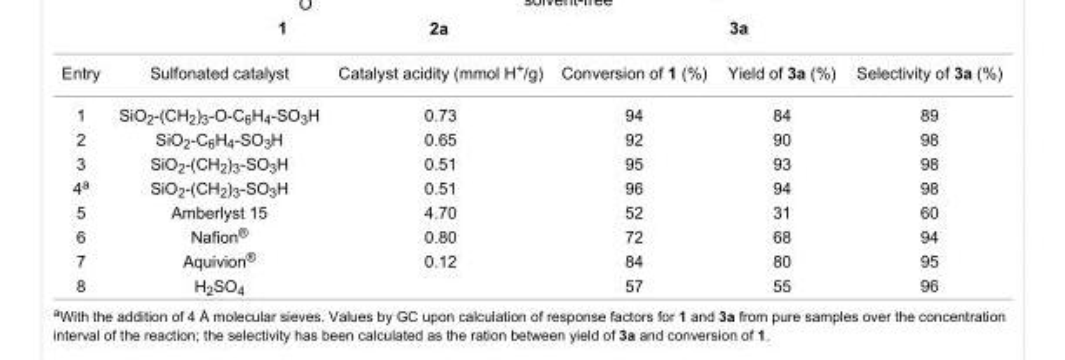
<table><tbody><tr><td>Entry</td><td>Sulfonated catalyst</td><td>Catalyst acidity (mmol H<sup>+</sup>/g)</td><td>Conversion of 1 (%)</td><td>Yield of 3a (%)</td><td>Selectivity of 3a (%)</td></tr><tr><td>1</td><td>SiO<sub>2</sub>-(CH<sub>2</sub>)<sub>3</sub>-O-C<sub>6</sub>H<sub>4</sub>-SO<sub>3</sub>H</td><td>0.73</td><td>94</td><td>84</td><td>89</td></tr><tr><td>2</td><td>SiO<sub>2</sub>-C<sub>6</sub>H<sub>4</sub>-SO<sub>3</sub>H</td><td>0.65</td><td>92</td><td>90</td><td>98</td></tr><tr><td>3</td><td>SiO<sub>2</sub>-(CH<sub>2</sub>)<sub>3</sub>-SO<sub>3</sub>H</td><td>0.51</td><td>95</td><td>93</td><td>98</td></tr><tr><td>4<sup>a</sup></td><td>SiO<sub>2</sub>-(CH<sub>2</sub>)<sub>3</sub>-SO<sub>3</sub>H</td><td>0.51</td><td>96</td><td>94</td><td>98</td></tr><tr><td>5</td><td>Amberlyst 15</td><td>4.70</td><td>52</td><td>31</td><td>60</td></tr><tr><td>6</td><td>Nafion<sup>®</sup></td><td>0.80</td><td>72</td><td>68</td><td>94</td></tr><tr><td>7</td><td>Aquivion<sup>®</sup></td><td>0.12</td><td>84</td><td>80</td><td>95</td></tr><tr><td>8</td><td>H<sub>2</sub>SO<sub>4</sub></td><td></td><td>57</td><td>55</td><td>96</td></tr></tbody></table>